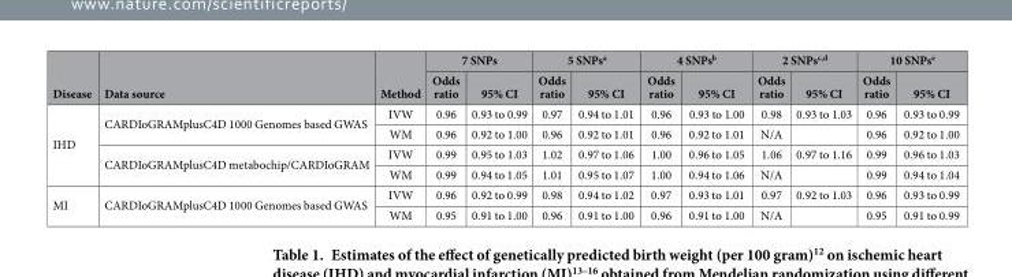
<table><thead><tr><td rowspan="2">Disease</td><td rowspan="2">Data source</td><td rowspan="2">Method</td><td colspan="2">7 SNPs</td><td colspan="2">5 SNPs<sup>a</sup></td><td colspan="2">4 SNPs<sup>b</sup></td><td colspan="2">2 SNPs<sup>c</sup>,<sup>d</sup></td><td colspan="2">10 SNPs<sup>e</sup></td></tr><tr><td>Odds ratio</td><td>95% CI</td><td>Odds ratio</td><td>95% CI</td><td>Odds ratio</td><td>95% CI</td><td>Odds ratio</td><td>95% CI</td><td>Odds ratio</td><td>95% CI</td></tr></thead><tbody><tr><td rowspan="4">IHD</td><td rowspan="2">CARDIoGRAMplusC4D 1000 Genomes based GWAS</td><td>IVW</td><td>0.96</td><td>0.93 to 0.99</td><td>0.97</td><td>0.94 to 1.01</td><td>0.96</td><td>0.93 to 1.00</td><td>0.98</td><td>0.93 to 1.03</td><td>0.96</td><td>0.93 to 0.99</td></tr><tr><td>WM</td><td>0.96</td><td>0.92 to 1.00</td><td>0.96</td><td>0.92 to 1.01</td><td>0.96</td><td>0.92 to 1.01</td><td>N/A</td><td></td><td>0.96</td><td>0.92 to 1.00</td></tr><tr><td rowspan="2">CARDIoGRAMplusC4D metabochip/CARDIoGRAM</td><td>IVW</td><td>0.99</td><td>0.95 to 1.03</td><td>1.02</td><td>0.97 to 1.06</td><td>1.00</td><td>0.96 to 1.05</td><td>1.06</td><td>0.97 to 1.16</td><td>0.99</td><td>0.96 to 1.03</td></tr><tr><td>WM</td><td>0.99</td><td>0.94 to 1.05</td><td>1.01</td><td>0.95 to 1.07</td><td>1.00</td><td>0.94 to 1.06</td><td>N/A</td><td></td><td>0.99</td><td>0.94 to 1.04</td></tr><tr><td rowspan="2">MI</td><td rowspan="2">CARDIoGRAMplusC4D 1000 Genomes based GWAS</td><td>IVW</td><td>0.96</td><td>0.92 to 0.99</td><td>0.98</td><td>0.94 to 1.02</td><td>0.97</td><td>0.93 to 1.01</td><td>0.97</td><td>0.92 to 1.03</td><td>0.96</td><td>0.93 to 0.99</td></tr><tr><td>WM</td><td>0.95</td><td>0.91 to 1.00</td><td>0.96</td><td>0.91 to 1.00</td><td>0.96</td><td>0.91 to 1.00</td><td>N/A</td><td></td><td>0.95</td><td>0.91 to 0.99</td></tr></tbody></table>